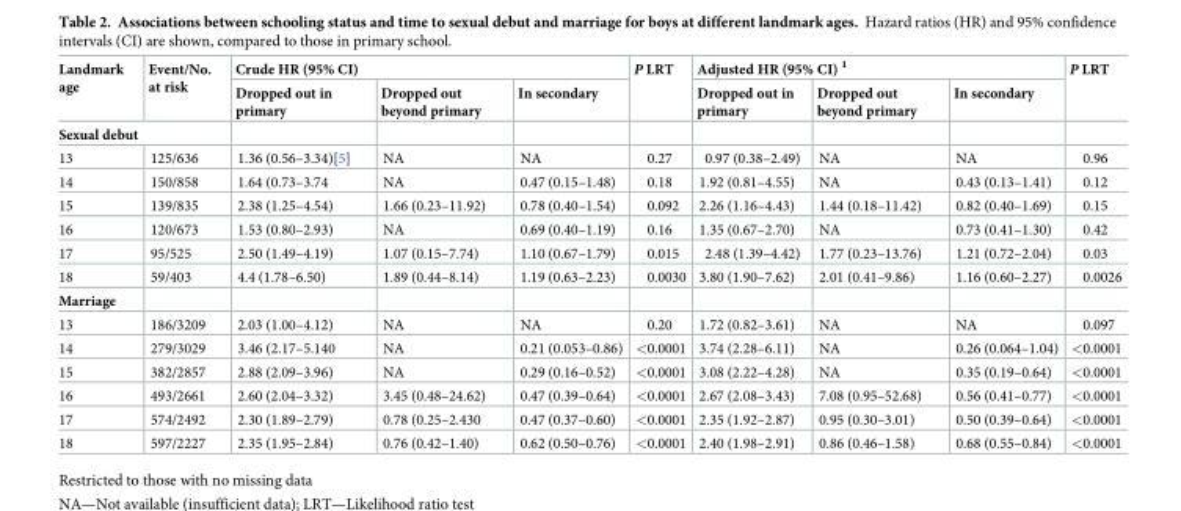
<table><thead><tr><td rowspan="2">Landmark age</td><td rowspan="2">Event/No. at risk</td><td colspan="3">Crude HR (95% CI)</td><td rowspan="2">P LRT</td><td colspan="3">Adjusted HR (95% CI) <sup>1</sup></td><td rowspan="2">P LRT</td></tr><tr><td>Dropped out in primary</td><td>Dropped out beyond primary</td><td>In secondary</td><td>Dropped out in primary</td><td>Dropped out beyond primary</td><td>In secondary</td></tr></thead><tbody><tr><td colspan="10">Sexual debut</td></tr><tr><td>13</td><td>125/636</td><td>1.36 (0.56–3.34)[5]</td><td>NA</td><td>NA</td><td>0.27</td><td>0.97 (0.38–2.49)</td><td>NA</td><td>NA</td><td>0.96</td></tr><tr><td>14</td><td>150/858</td><td>1.64 (0.73–3.74</td><td>NA</td><td>0.47 (0.15–1.48)</td><td>0.18</td><td>1.92 (0.81–4.55)</td><td>NA</td><td>0.43 (0.13–1.41)</td><td>0.12</td></tr><tr><td>15</td><td>139/835</td><td>2.38 (1.25–4.54)</td><td>1.66 (0.23–11.92)</td><td>0.78 (0.40–1.54)</td><td>0.092</td><td>2.26 (1.16–4.43)</td><td>1.44 (0.18–11.42)</td><td>0.82 (0.40–1.69)</td><td>0.15</td></tr><tr><td>16</td><td>120/673</td><td>1.53 (0.80–2.93)</td><td>NA</td><td>0.69 (0.40–1.19)</td><td>0.16</td><td>1.35 (0.67–2.70)</td><td>NA</td><td>0.73 (0.41–1.30)</td><td>0.42</td></tr><tr><td>17</td><td>95/525</td><td>2.50 (1.49–4.19)</td><td>1.07 (0.15–7.74)</td><td>1.10 (0.67–1.79)</td><td>0.015</td><td>2.48 (1.39–4.42)</td><td>1.77 (0.23–13.76)</td><td>1.21 (0.72–2.04)</td><td>0.03</td></tr><tr><td>18</td><td>59/403</td><td>4.4 (1.78–6.50)</td><td>1.89 (0.44–8.14)</td><td>1.19 (0.63–2.23)</td><td>0.0030</td><td>3.80 (1.90–7.62)</td><td>2.01 (0.41–9.86)</td><td>1.16 (0.60–2.27)</td><td>0.0026</td></tr><tr><td colspan="10">Marriage</td></tr><tr><td>13</td><td>186/3209</td><td>2.03 (1.00–4.12)</td><td>NA</td><td>NA</td><td>0.20</td><td>1.72 (0.82–3.61)</td><td>NA</td><td>NA</td><td>0.097</td></tr><tr><td>14</td><td>279/3029</td><td>3.46 (2.17–5.140</td><td>NA</td><td>0.21 (0.053–0.86)</td><td>&lt;0.0001</td><td>3.74 (2.28–6.11)</td><td>NA</td><td>0.26 (0.064–1.04)</td><td>&lt;0.0001</td></tr><tr><td>15</td><td>382/2857</td><td>2.88 (2.09–3.96)</td><td>NA</td><td>0.29 (0.16–0.52)</td><td>&lt;0.0001</td><td>3.08 (2.22–4.28)</td><td>NA</td><td>0.35 (0.19–0.64)</td><td>&lt;0.0001</td></tr><tr><td>16</td><td>493/2661</td><td>2.60 (2.04–3.32)</td><td>3.45 (0.48–24.62)</td><td>0.47 (0.39–0.64)</td><td>&lt;0.0001</td><td>2.67 (2.08–3.43)</td><td>7.08 (0.95–52.68)</td><td>0.56 (0.41–0.77)</td><td>&lt;0.0001</td></tr><tr><td>17</td><td>574/2492</td><td>2.30 (1.89–2.79)</td><td>0.78 (0.25–2.430</td><td>0.47 (0.37–0.60)</td><td>&lt;0.0001</td><td>2.35 (1.92–2.87)</td><td>0.95 (0.30–3.01)</td><td>0.50 (0.39–0.64)</td><td>&lt;0.0001</td></tr><tr><td>18</td><td>597/2227</td><td>2.35 (1.95–2.84)</td><td>0.76 (0.42–1.40)</td><td>0.62 (0.50–0.76)</td><td>&lt;0.0001</td><td>2.40 (1.98–2.91)</td><td>0.86 (0.46–1.58)</td><td>0.68 (0.55–0.84)</td><td>&lt;0.0001</td></tr></tbody></table>